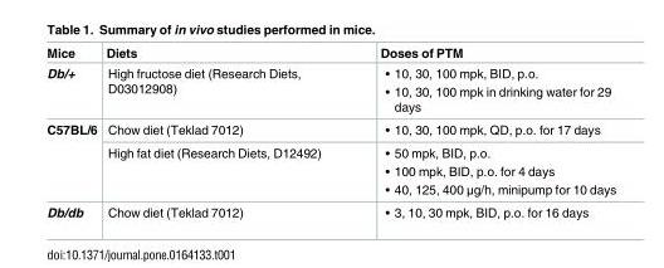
<table><thead><tr><td>Mice</td><td>Diets</td><td>Doses of PTM</td></tr></thead><tbody><tr><td>Db/+</td><td>High fructose diet (Research Diets, D03012908)</td><td>• 10, 30, 100 mpk, BID, p.o. • 10, 30, 100 mpk in drinking water for 29 days</td></tr><tr><td rowspan="2">C57BL/6</td><td>Chow diet (Teklad 7012)</td><td>• 10, 30, 100 mpk, QD, p.o. for 17 days</td></tr><tr><td>High fat diet (Research Diets, D12492)</td><td>• 50 mpk, BID, p.o. • 100 mpk, BID, p.o. for 4 days • 40, 125, 400 μg/h, minipump for 10 days</td></tr><tr><td>Db/db</td><td>Chow diet (Teklad 7012)</td><td>• 3, 10, 30 mpk, BID, p.o. for 16 days</td></tr></tbody></table>